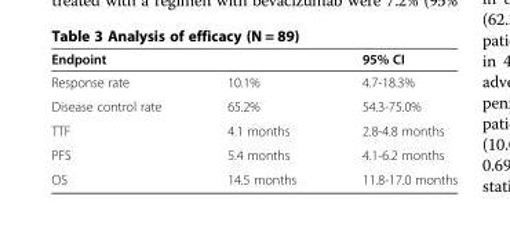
<table><thead><tr><td>Endpoint</td><td></td><td>95% CI</td></tr></thead><tbody><tr><td>Response rate</td><td>10.1%</td><td>4.7-18.3%</td></tr><tr><td>Disease control rate</td><td>65.2%</td><td>54.3-75.0%</td></tr><tr><td>TTF</td><td>4.1 months</td><td>2.8-4.8 months</td></tr><tr><td>PFS</td><td>5.4 months</td><td>4.1-6.2 months</td></tr><tr><td>OS</td><td>14.5 months</td><td>11.8-17.0 months</td></tr></tbody></table>